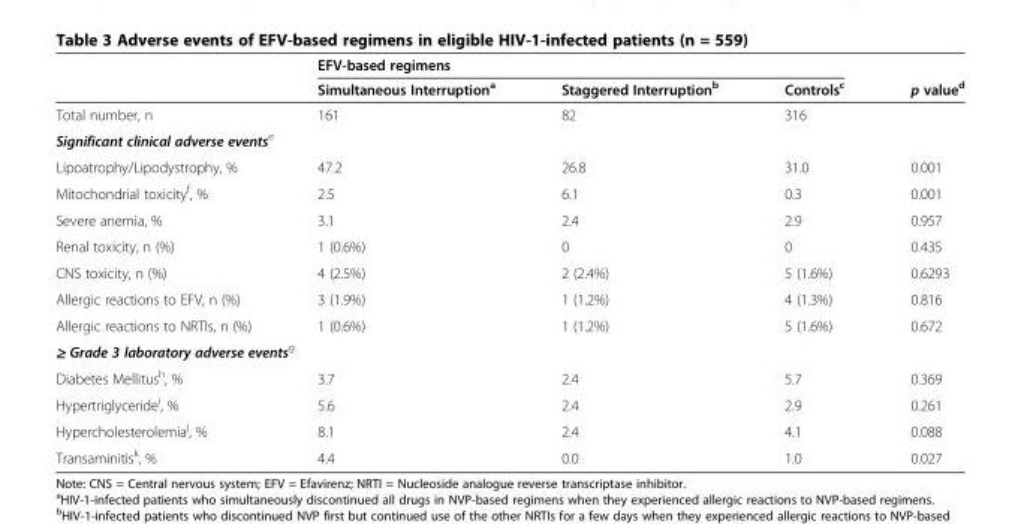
<table><thead><tr><td rowspan="2"></td><td colspan="3">EFV-based regimens</td><td rowspan="2">p value<sup>d</sup></td></tr><tr><td>Simultaneous Interruption<sup>a</sup></td><td>Staggered Interruption<sup>b</sup></td><td>Controls<sup>c</sup></td></tr></thead><tbody><tr><td>Total number, n</td><td>161</td><td>82</td><td>316</td><td></td></tr><tr><td colspan="5">Significant clinical adverse events<sup>e</sup></td></tr><tr><td>Lipoatrophy/Lipodystrophy, %</td><td>47.2</td><td>26.8</td><td>31.0</td><td>0.001</td></tr><tr><td>Mitochondrial toxicity<sup>f</sup>, %</td><td>2.5</td><td>6.1</td><td>0.3</td><td>0.001</td></tr><tr><td>Severe anemia, %</td><td>3.1</td><td>2.4</td><td>2.9</td><td>0.957</td></tr><tr><td>Renal toxicity, n (%)</td><td>1 (0.6%)</td><td>0</td><td>0</td><td>0.435</td></tr><tr><td>CNS toxicity, n (%)</td><td>4 (2.5%)</td><td>2 (2.4%)</td><td>5 (1.6%)</td><td>0.6293</td></tr><tr><td>Allergic reactions to EFV, n (%)</td><td>3 (1.9%)</td><td>1 (1.2%)</td><td>4 (1.3%)</td><td>0.816</td></tr><tr><td>Allergic reactions to NRTIs, n (%)</td><td>1 (0.6%)</td><td>1 (1.2%)</td><td>5 (1.6%)</td><td>0.672</td></tr><tr><td colspan="5">≥ Grade 3 laboratory adverse events<sup>g</sup></td></tr><tr><td>Diabetes Mellitus<sup>h</sup>, %</td><td>3.7</td><td>2.4</td><td>5.7</td><td>0.369</td></tr><tr><td>Hypertriglyceride<sup>i</sup>, %</td><td>5.6</td><td>2.4</td><td>2.9</td><td>0.261</td></tr><tr><td>Hypercholesterolemia<sup>j</sup>, %</td><td>8.1</td><td>2.4</td><td>4.1</td><td>0.088</td></tr><tr><td>Transaminitis<sup>k</sup>, %</td><td>4.4</td><td>0.0</td><td>1.0</td><td>0.027</td></tr></tbody></table>